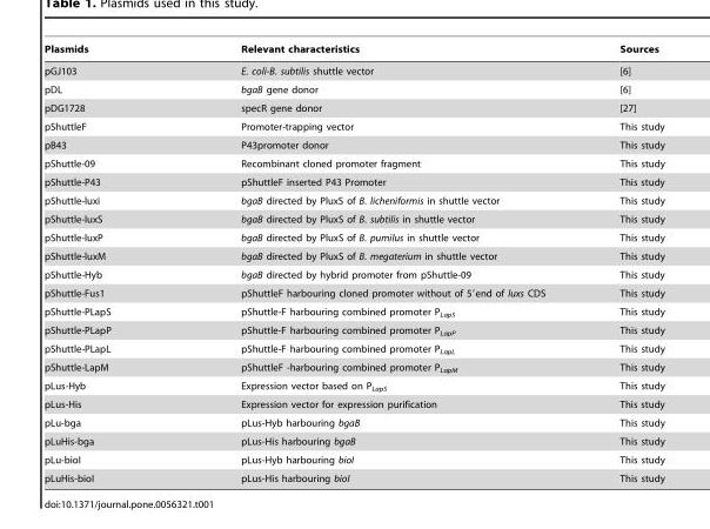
<table><thead><tr><td>Plasmids</td><td>Relevant characteristics</td><td>Sources</td></tr></thead><tbody><tr><td>pGJ103</td><td>E. coli-B. subtilis shuttle vector</td><td>[6]</td></tr><tr><td>pDL</td><td>bgaB gene donor</td><td>[6]</td></tr><tr><td>pDG1728</td><td>specR gene donor</td><td>[27]</td></tr><tr><td>pShuttleF</td><td>Promoter-trapping vector</td><td>This study</td></tr><tr><td>pB43</td><td>P43promoter donor</td><td>This study</td></tr><tr><td>pShuttle-09</td><td>Recombinant cloned promoter fragment</td><td>This study</td></tr><tr><td>pShuttle-P43</td><td>pShuttleF inserted P43 Promoter</td><td>This study</td></tr><tr><td>pShuttle-luxi</td><td>bgaB directed by PluxS of B. licheniformis in shuttle vector</td><td>This study</td></tr><tr><td>pShuttle-luxS</td><td>bgaB directed by PluxS of B. subtilis in shuttle vector</td><td>This study</td></tr><tr><td>pShuttle-luxP</td><td>bgaB directed by PluxS of B. pumilus in shuttle vector</td><td>This study</td></tr><tr><td>pShuttle-luxM</td><td>bgaB directed by PluxS of B. megaterium in shuttle vector</td><td>This study</td></tr><tr><td>pShuttle-Hyb</td><td>bgaB directed by hybrid promoter from pShuttle-09</td><td>This study</td></tr><tr><td>pShuttle-Fus1</td><td>pShuttleF harbouring cloned promoter without of 5′end of luxs CDS</td><td>This study</td></tr><tr><td>pShuttle-PLapS</td><td>pShuttle-F harbouring combined promoter P<sub>LapS</sub></td><td>This study</td></tr><tr><td>pShuttle-PLapP</td><td>pShuttle-F harbouring combined promoter P<sub>LapP</sub></td><td>This study</td></tr><tr><td>pShuttle-PLapL</td><td>pShuttle-F harbouring combined promoter P<sub>LapL</sub></td><td>This study</td></tr><tr><td>pShuttle-LapM</td><td>pShuttleF -harbouring combined promoter P<sub>LapM</sub></td><td>This study</td></tr><tr><td>pLus-Hyb</td><td>Expression vector based on P<sub>LapS</sub></td><td>This study</td></tr><tr><td>pLus-His</td><td>Expression vector for expression purification</td><td>This study</td></tr><tr><td>pLu-bga</td><td>pLus-Hyb harbouring bgaB</td><td>This study</td></tr><tr><td>pLuHis-bga</td><td>pLus-His harbouring bgaB</td><td>This study</td></tr><tr><td>pLu-bioI</td><td>pLus-Hyb harbouring bioI</td><td>This study</td></tr><tr><td>pLuHis-bioI</td><td>pLus-His harbouring bioI</td><td>This study</td></tr></tbody></table>